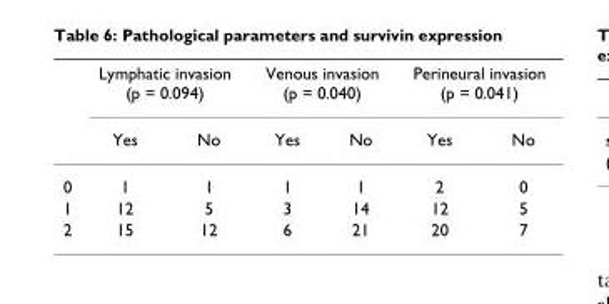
<table><thead><tr><td rowspan="2"></td><td colspan="2">Lymphatic invasion (p = 0.094)</td><td colspan="2">Venous invasion (p = 0.040)</td><td colspan="2">Perineural invasion (p = 0.041)</td></tr><tr><td>Yes</td><td>No</td><td>Yes</td><td>No</td><td>Yes</td><td>No</td></tr></thead><tbody><tr><td>0</td><td>1</td><td>1</td><td>1</td><td>1</td><td>2</td><td>0</td></tr><tr><td>1</td><td>12</td><td>5</td><td>3</td><td>14</td><td>12</td><td>5</td></tr><tr><td>2</td><td>15</td><td>12</td><td>6</td><td>21</td><td>20</td><td>7</td></tr></tbody></table>